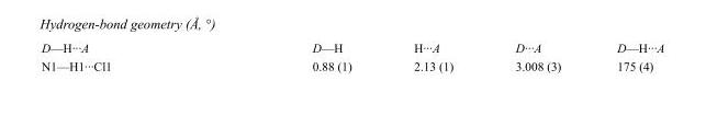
<table><tbody><tr><td>D—H···A</td><td>D—H</td><td>H···A</td><td>D···A</td><td>D—H···A</td></tr><tr><td>N1—H1···Cl1</td><td>0.88 (1)</td><td>2.13 (1)</td><td>3.008 (3)</td><td>175 (4)</td></tr></tbody></table>